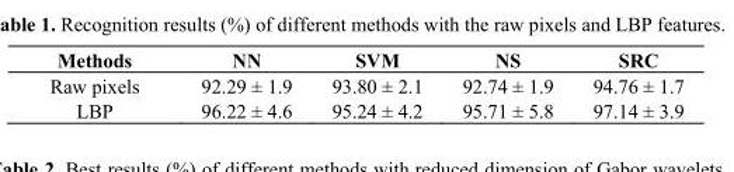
<table><thead><tr><td>Methods</td><td>NN</td><td>SVM</td><td>NS</td><td>SRC</td></tr></thead><tbody><tr><td>Raw pixels</td><td>92.29 ± 1.9</td><td>93.80 ± 2.1</td><td>92.74 ± 1.9</td><td>94.76 ± 1.7</td></tr><tr><td>LBP</td><td>96.22 ± 4.6</td><td>95.24 ± 4.2</td><td>95.71 ± 5.8</td><td>97.14 ± 3.9</td></tr></tbody></table>